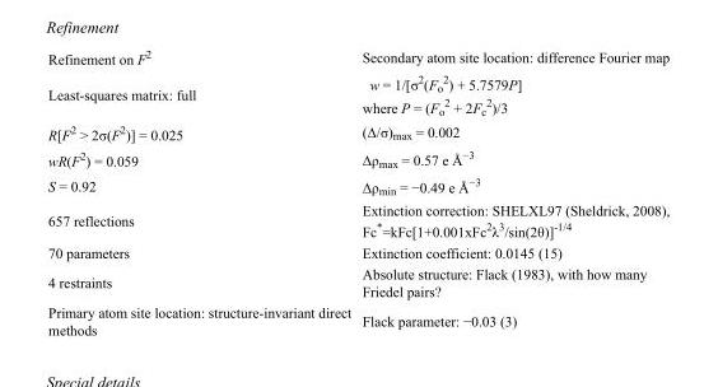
<table><tbody><tr><td>Refinement on F<sup>2</sup></td><td>Secondary atom site location: difference Fourier map</td></tr><tr><td>Least-squares matrix: full</td><td>w = 1/[σ<sup>2</sup>(F<sub>o</sub> <sup>2</sup>) + 5.7579P] where P = (F<sub>o</sub> <sup>2</sup> + 2F<sub>c</sub> <sup>2</sup>)/3</td></tr><tr><td>R[F<sup>2</sup> &gt; 2σ(F<sup>2</sup>)] = 0.025</td><td>(Δ/σ)<sub>max</sub> = 0.002</td></tr><tr><td>wR(F<sup>2</sup>) = 0.059</td><td>Δρ<sub>max</sub> = 0.57 e Å<sup>−3</sup></td></tr><tr><td>S = 0.92</td><td>Δρ<sub>min</sub> = −0.49 e Å<sup>−3</sup></td></tr><tr><td>657 reflections</td><td>Extinction correction: SHELXL97 (Sheldrick, 2008), Fc*=kFc[1+0.001xFc<sup>2</sup>λ<sup>3</sup>/sin(2θ)]<sup>-1/4</sup></td></tr><tr><td>70 parameters</td><td>Extinction coefficient: 0.0145 (15)</td></tr><tr><td>4 restraints</td><td>Absolute structure: Flack (1983), with how many Friedel pairs?</td></tr><tr><td>Primary atom site location: structure-invariant direct methods</td><td>Flack parameter: −0.03 (3)</td></tr></tbody></table>